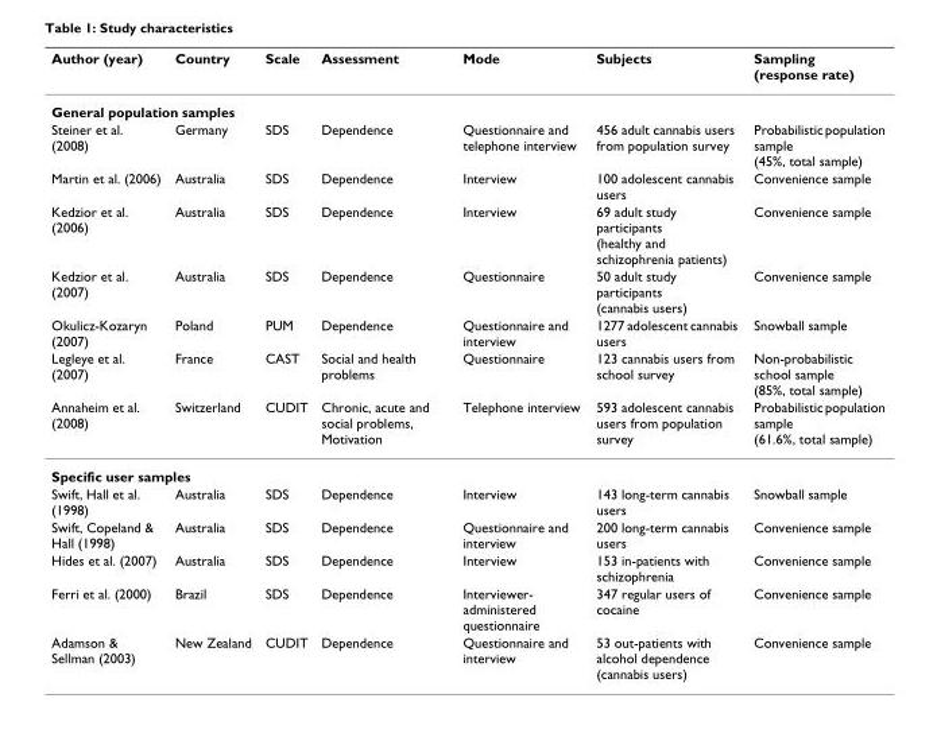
<table><thead><tr><td>Author (year)</td><td>Country</td><td>Scale</td><td>Assessment</td><td>Mode</td><td>Subjects</td><td>Sampling (response rate)</td></tr></thead><tbody><tr><td colspan="7">General population samples</td></tr><tr><td>Steiner et al. (2008)</td><td>Germany</td><td>SDS</td><td>Dependence</td><td>Questionnaire and telephone interview</td><td>456 adult cannabis users from population survey</td><td>Probabilistic population sample (45%, total sample)</td></tr><tr><td>Martin et al. (2006)</td><td>Australia</td><td>SDS</td><td>Dependence</td><td>Interview</td><td>100 adolescent cannabis users</td><td>Convenience sample</td></tr><tr><td>Kedzior et al. (2006)</td><td>Australia</td><td>SDS</td><td>Dependence</td><td>Interview</td><td>69 adult study participants (healthy and schizophrenia patients)</td><td>Convenience sample</td></tr><tr><td>Kedzior et al. (2007)</td><td>Australia</td><td>SDS</td><td>Dependence</td><td>Questionnaire</td><td>50 adult study participants (cannabis users)</td><td>Convenience sample</td></tr><tr><td>Okulicz-Kozaryn (2007)</td><td>Poland</td><td>PUM</td><td>Dependence</td><td>Questionnaire and interview</td><td>1277 adolescent cannabis users</td><td>Snowball sample</td></tr><tr><td>Legleye et al. (2007)</td><td>France</td><td>CAST</td><td>Social and health problems</td><td>Questionnaire</td><td>123 cannabis users from school survey</td><td>Non-probabilistic school sample (85%, total sample)</td></tr><tr><td>Annaheim et al. (2008)</td><td>Switzerland</td><td>CUDIT</td><td>Chronic, acute and social problems, Motivation</td><td>Telephone interview</td><td>593 adolescent cannabis users from population survey</td><td>Probabilistic population sample (61.6%, total sample)</td></tr><tr><td colspan="7">Specific user samples</td></tr><tr><td>Swift, Hall et al. (1998)</td><td>Australia</td><td>SDS</td><td>Dependence</td><td>Interview</td><td>143 long-term cannabis users</td><td>Snowball sample</td></tr><tr><td>Swift, Copeland &amp; Hall (1998)</td><td>Australia</td><td>SDS</td><td>Dependence</td><td>Questionnaire and interview</td><td>200 long-term cannabis users</td><td>Convenience sample</td></tr><tr><td>Hides et al. (2007)</td><td>Australia</td><td>SDS</td><td>Dependence</td><td>Interview</td><td>153 in-patients with schizophrenia</td><td>Convenience sample</td></tr><tr><td>Ferri et al. (2000)</td><td>Brazil</td><td>SDS</td><td>Dependence</td><td>Interviewer- administered questionnaire</td><td>347 regular users of cocaine</td><td>Convenience sample</td></tr><tr><td>Adamson &amp; Sellman (2003)</td><td>New Zealand</td><td>CUDIT</td><td>Dependence</td><td>Questionnaire and interview</td><td>53 out-patients with alcohol dependence (cannabis users)</td><td>Convenience sample</td></tr></tbody></table>